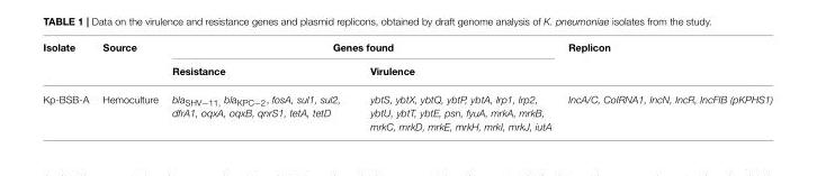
<table><thead><tr><td rowspan="2">Isolate</td><td rowspan="2">Source</td><td colspan="2">Genes found</td><td rowspan="2">Replicon</td></tr><tr><td>Resistance</td><td>Virulence</td></tr></thead><tbody><tr><td>Kp-BSB-A</td><td>Hemoculture</td><td>bla<sub>SHV−11</sub>, bla<sub>KPC−2</sub>, fosA, sul1, sul2, dfrA1, oqxA, oqxB, qnrS1, tetA, tetD</td><td>ybtS, ybtX, ybtQ, ybtP, ybtA, Irp1, Irp2, ybtU, ybtT, ybtE, psn, fyuA, mrkA, mrkB, mrkC, mrkD, mrkE, mrkH, mrkI, mrkJ, iutA</td><td>IncA/C, CoIRNA1, IncN, IncR, IncFIB (pKPHS1)</td></tr></tbody></table>